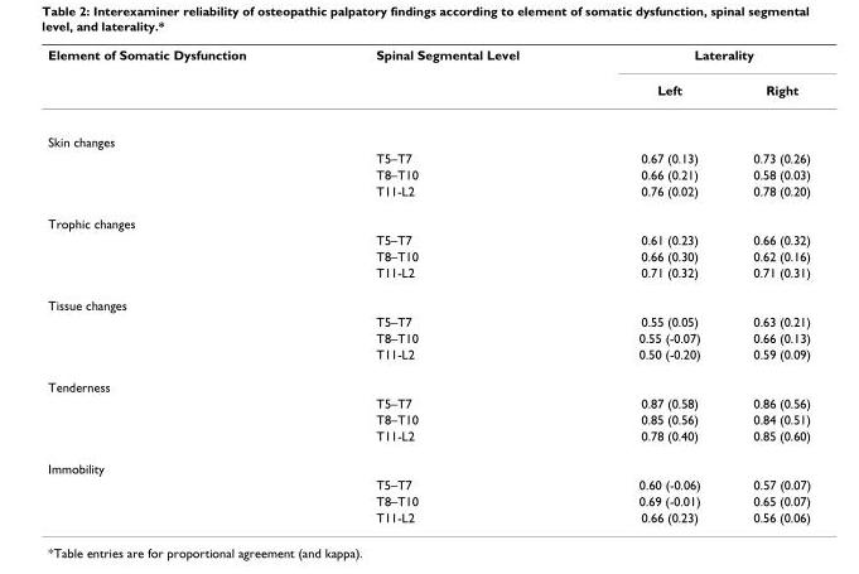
<table><thead><tr><td rowspan="2">Element of Somatic Dysfunction</td><td rowspan="2">Spinal Segmental Level</td><td colspan="2">Laterality</td></tr><tr><td>Left</td><td>Right</td></tr></thead><tbody><tr><td colspan="4">Skin changes</td></tr><tr><td></td><td>T5–T7</td><td>0.67 (0.13)</td><td>0.73 (0.26)</td></tr><tr><td></td><td>T8–T10</td><td>0.66 (0.21)</td><td>0.58 (0.03)</td></tr><tr><td></td><td>T11-L2</td><td>0.76 (0.02)</td><td>0.78 (0.20)</td></tr><tr><td colspan="4">Trophic changes</td></tr><tr><td></td><td>T5–T7</td><td>0.61 (0.23)</td><td>0.66 (0.32)</td></tr><tr><td></td><td>T8–T10</td><td>0.66 (0.30)</td><td>0.62 (0.16)</td></tr><tr><td></td><td>T11-L2</td><td>0.71 (0.32)</td><td>0.71 (0.31)</td></tr><tr><td colspan="4">Tissue changes</td></tr><tr><td></td><td>T5–T7</td><td>0.55 (0.05)</td><td>0.63 (0.21)</td></tr><tr><td></td><td>T8–T10</td><td>0.55 (-0.07)</td><td>0.66 (0.13)</td></tr><tr><td></td><td>T11-L2</td><td>0.50 (-0.20)</td><td>0.59 (0.09)</td></tr><tr><td colspan="4">Tenderness</td></tr><tr><td></td><td>T5–T7</td><td>0.87 (0.58)</td><td>0.86 (0.56)</td></tr><tr><td></td><td>T8–T10</td><td>0.85 (0.56)</td><td>0.84 (0.51)</td></tr><tr><td></td><td>T11-L2</td><td>0.78 (0.40)</td><td>0.85 (0.60)</td></tr><tr><td colspan="4">Immobility</td></tr><tr><td></td><td>T5–T7</td><td>0.60 (-0.06)</td><td>0.57 (0.07)</td></tr><tr><td></td><td>T8–T10</td><td>0.69 (-0.01)</td><td>0.65 (0.07)</td></tr><tr><td></td><td>T11-L2</td><td>0.66 (0.23)</td><td>0.56 (0.06)</td></tr></tbody></table>